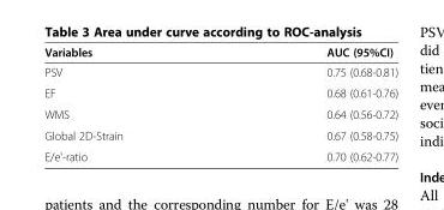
<table><thead><tr><td>Variables</td><td>AUC (95%CI)</td></tr></thead><tbody><tr><td>PSV</td><td>0.75 (0.68-0.81)</td></tr><tr><td>EF</td><td>0.68 (0.61-0.76)</td></tr><tr><td>WMS</td><td>0.64 (0.56-0.72)</td></tr><tr><td>Global 2D-Strain</td><td>0.67 (0.58-0.75)</td></tr><tr><td>E/e&#x27;-ratio</td><td>0.70 (0.62-0.77)</td></tr></tbody></table>